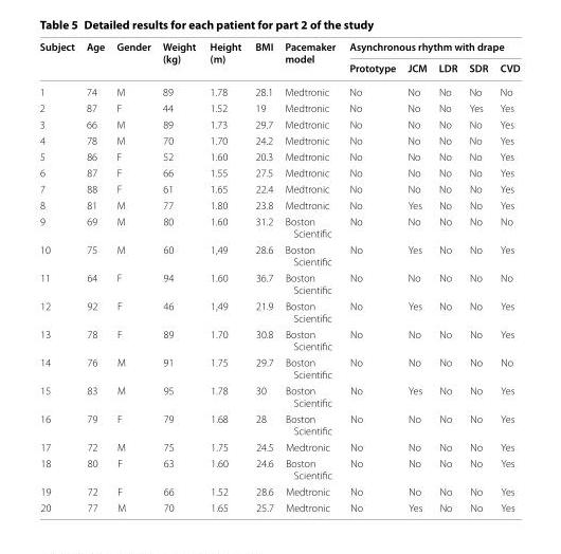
<table><thead><tr><td rowspan="2">Subject</td><td rowspan="2">Age</td><td rowspan="2">Gender</td><td rowspan="2">Weight (kg)</td><td rowspan="2">Height (m)</td><td rowspan="2">BMI</td><td rowspan="2">Pacemaker model</td><td colspan="5">Asynchronous rhythm with drape</td></tr><tr><td>Prototype</td><td>JCM</td><td>LDR</td><td>SDR</td><td>CVD</td></tr></thead><tbody><tr><td>1</td><td>74</td><td>M</td><td>89</td><td>1.78</td><td>28.1</td><td>Medtronic</td><td>No</td><td>No</td><td>No</td><td>No</td><td>No</td></tr><tr><td>2</td><td>87</td><td>F</td><td>44</td><td>1.52</td><td>19</td><td>Medtronic</td><td>No</td><td>No</td><td>No</td><td>Yes</td><td>Yes</td></tr><tr><td>3</td><td>66</td><td>M</td><td>89</td><td>1.73</td><td>29.7</td><td>Medtronic</td><td>No</td><td>No</td><td>No</td><td>No</td><td>Yes</td></tr><tr><td>4</td><td>78</td><td>M</td><td>70</td><td>1.70</td><td>24.2</td><td>Medtronic</td><td>No</td><td>No</td><td>No</td><td>No</td><td>Yes</td></tr><tr><td>5</td><td>86</td><td>F</td><td>52</td><td>1.60</td><td>20.3</td><td>Medtronic</td><td>No</td><td>No</td><td>No</td><td>No</td><td>Yes</td></tr><tr><td>6</td><td>87</td><td>F</td><td>66</td><td>1.55</td><td>27.5</td><td>Medtronic</td><td>No</td><td>No</td><td>No</td><td>No</td><td>Yes</td></tr><tr><td>7</td><td>88</td><td>F</td><td>61</td><td>1.65</td><td>22.4</td><td>Medtronic</td><td>No</td><td>No</td><td>No</td><td>No</td><td>Yes</td></tr><tr><td>8</td><td>81</td><td>M</td><td>77</td><td>1.80</td><td>23.8</td><td>Medtronic</td><td>No</td><td>Yes</td><td>No</td><td>No</td><td>Yes</td></tr><tr><td>9</td><td>69</td><td>M</td><td>80</td><td>1.60</td><td>31.2</td><td>Boston Scientific</td><td>No</td><td>No</td><td>No</td><td>No</td><td>No</td></tr><tr><td>10</td><td>75</td><td>M</td><td>60</td><td>1,49</td><td>28.6</td><td>Boston Scientific</td><td>No</td><td>Yes</td><td>No</td><td>No</td><td>Yes</td></tr><tr><td>11</td><td>64</td><td>F</td><td>94</td><td>1.60</td><td>36.7</td><td>Boston Scientific</td><td>No</td><td>No</td><td>No</td><td>No</td><td>No</td></tr><tr><td>12</td><td>92</td><td>F</td><td>46</td><td>1,49</td><td>21.9</td><td>Boston Scientific</td><td>No</td><td>Yes</td><td>No</td><td>No</td><td>Yes</td></tr><tr><td>13</td><td>78</td><td>F</td><td>89</td><td>1.70</td><td>30.8</td><td>Boston Scientific</td><td>No</td><td>No</td><td>No</td><td>No</td><td>Yes</td></tr><tr><td>14</td><td>76</td><td>M</td><td>91</td><td>1.75</td><td>29.7</td><td>Boston Scientific</td><td>No</td><td>No</td><td>No</td><td>No</td><td>No</td></tr><tr><td>15</td><td>83</td><td>M</td><td>95</td><td>1.78</td><td>30</td><td>Boston Scientific</td><td>No</td><td>Yes</td><td>No</td><td>No</td><td>Yes</td></tr><tr><td>16</td><td>79</td><td>F</td><td>79</td><td>1.68</td><td>28</td><td>Boston Scientific</td><td>No</td><td>No</td><td>No</td><td>No</td><td>Yes</td></tr><tr><td>17</td><td>72</td><td>M</td><td>75</td><td>1.75</td><td>24.5</td><td>Medtronic</td><td>No</td><td>No</td><td>No</td><td>No</td><td>Yes</td></tr><tr><td>18</td><td>80</td><td>F</td><td>63</td><td>1.60</td><td>24.6</td><td>Boston Scientific</td><td>No</td><td>No</td><td>No</td><td>No</td><td>Yes</td></tr><tr><td>19</td><td>72</td><td>F</td><td>66</td><td>1.52</td><td>28.6</td><td>Medtronic</td><td>No</td><td>No</td><td>No</td><td>No</td><td>Yes</td></tr><tr><td>20</td><td>77</td><td>M</td><td>70</td><td>1.65</td><td>25.7</td><td>Medtronic</td><td>No</td><td>Yes</td><td>No</td><td>No</td><td>Yes</td></tr></tbody></table>